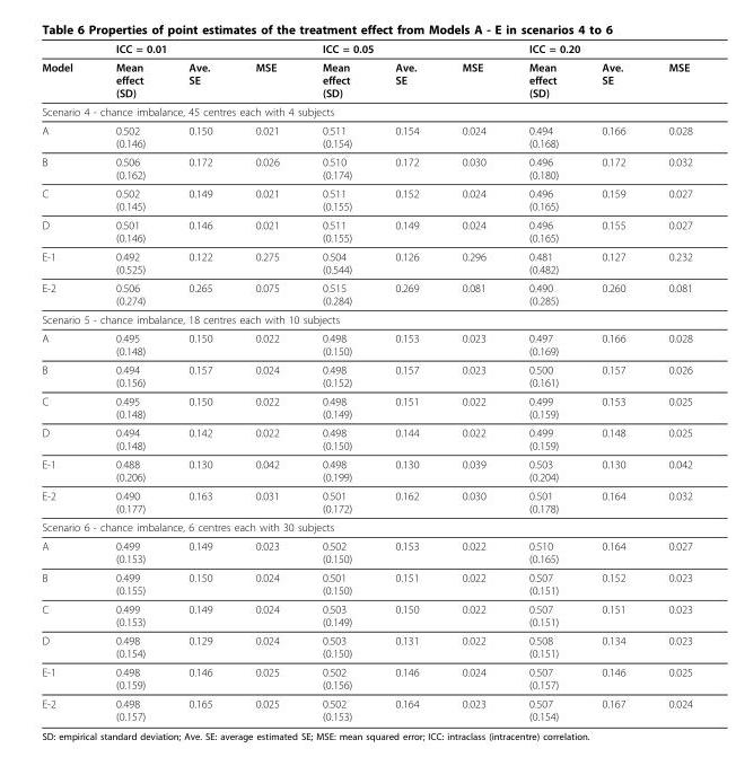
<table><thead><tr><td rowspan="2">Model</td><td colspan="3">ICC = 0.01</td><td colspan="3">ICC = 0.05</td><td colspan="3">ICC = 0.20</td></tr><tr><td>Mean effect (SD)</td><td>Ave. SE</td><td>MSE</td><td>Mean effect (SD)</td><td>Ave. SE</td><td>MSE</td><td>Mean effect (SD)</td><td>Ave. SE</td><td>MSE</td></tr></thead><tbody><tr><td colspan="10">Scenario 4 - chance imbalance, 45 centres each with 4 subjects</td></tr><tr><td>A</td><td>0.502 (0.146)</td><td>0.150</td><td>0.021</td><td>0.511 (0.154)</td><td>0.154</td><td>0.024</td><td>0.494 (0.168)</td><td>0.166</td><td>0.028</td></tr><tr><td>B</td><td>0.506 (0.162)</td><td>0.172</td><td>0.026</td><td>0.510 (0.174)</td><td>0.172</td><td>0.030</td><td>0.496 (0.180)</td><td>0.172</td><td>0.032</td></tr><tr><td>C</td><td>0.502 (0.145)</td><td>0.149</td><td>0.021</td><td>0.511 (0.155)</td><td>0.152</td><td>0.024</td><td>0.496 (0.165)</td><td>0.159</td><td>0.027</td></tr><tr><td>D</td><td>0.501 (0.146)</td><td>0.146</td><td>0.021</td><td>0.511 (0.155)</td><td>0.149</td><td>0.024</td><td>0.496 (0.165)</td><td>0.155</td><td>0.027</td></tr><tr><td>E-1</td><td>0.492 (0.525)</td><td>0.122</td><td>0.275</td><td>0.504 (0.544)</td><td>0.126</td><td>0.296</td><td>0.481 (0.482)</td><td>0.127</td><td>0.232</td></tr><tr><td>E-2</td><td>0.506 (0.274)</td><td>0.265</td><td>0.075</td><td>0.515 (0.284)</td><td>0.269</td><td>0.081</td><td>0.490 (0.285)</td><td>0.260</td><td>0.081</td></tr><tr><td colspan="10">Scenario 5 - chance imbalance, 18 centres each with 10 subjects</td></tr><tr><td>A</td><td>0.495 (0.148)</td><td>0.150</td><td>0.022</td><td>0.498 (0.150)</td><td>0.153</td><td>0.023</td><td>0.497 (0.169)</td><td>0.166</td><td>0.028</td></tr><tr><td>B</td><td>0.494 (0.156)</td><td>0.157</td><td>0.024</td><td>0.498 (0.152)</td><td>0.157</td><td>0.023</td><td>0.500 (0.161)</td><td>0.157</td><td>0.026</td></tr><tr><td>C</td><td>0.495 (0.148)</td><td>0.150</td><td>0.022</td><td>0.498 (0.149)</td><td>0.151</td><td>0.022</td><td>0.499 (0.159)</td><td>0.153</td><td>0.025</td></tr><tr><td>D</td><td>0.494 (0.148)</td><td>0.142</td><td>0.022</td><td>0.498 (0.150)</td><td>0.144</td><td>0.022</td><td>0.499 (0.159)</td><td>0.148</td><td>0.025</td></tr><tr><td>E-1</td><td>0.488 (0.206)</td><td>0.130</td><td>0.042</td><td>0.498 (0.199)</td><td>0.130</td><td>0.039</td><td>0.503 (0.204)</td><td>0.130</td><td>0.042</td></tr><tr><td>E-2</td><td>0.490 (0.177)</td><td>0.163</td><td>0.031</td><td>0.501 (0.172)</td><td>0.162</td><td>0.030</td><td>0.501 (0.178)</td><td>0.164</td><td>0.032</td></tr><tr><td colspan="10">Scenario 6 - chance imbalance, 6 centres each with 30 subjects</td></tr><tr><td>A</td><td>0.499 (0.153)</td><td>0.149</td><td>0.023</td><td>0.502 (0.150)</td><td>0.153</td><td>0.022</td><td>0.510 (0.165)</td><td>0.164</td><td>0.027</td></tr><tr><td>B</td><td>0.499 (0.155)</td><td>0.150</td><td>0.024</td><td>0.501 (0.150)</td><td>0.151</td><td>0.022</td><td>0.507 (0.151)</td><td>0.152</td><td>0.023</td></tr><tr><td>C</td><td>0.499 (0.153)</td><td>0.149</td><td>0.024</td><td>0.503 (0.149)</td><td>0.150</td><td>0.022</td><td>0.507 (0.151)</td><td>0.151</td><td>0.023</td></tr><tr><td>D</td><td>0.498 (0.154)</td><td>0.129</td><td>0.024</td><td>0.503 (0.150)</td><td>0.131</td><td>0.022</td><td>0.508 (0.151)</td><td>0.134</td><td>0.023</td></tr><tr><td>E-1</td><td>0.498 (0.159)</td><td>0.146</td><td>0.025</td><td>0.502 (0.156)</td><td>0.146</td><td>0.024</td><td>0.507 (0.157)</td><td>0.146</td><td>0.025</td></tr><tr><td>E-2</td><td>0.498 (0.157)</td><td>0.165</td><td>0.025</td><td>0.502 (0.153)</td><td>0.164</td><td>0.023</td><td>0.507 (0.154)</td><td>0.167</td><td>0.024</td></tr></tbody></table>